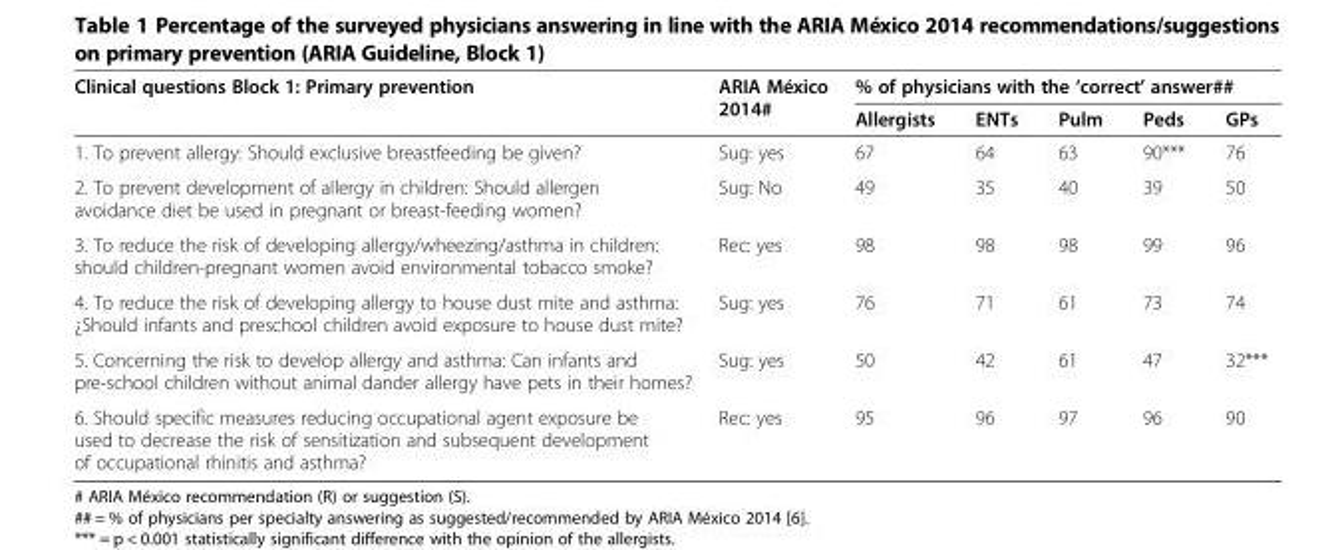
<table><thead><tr><td rowspan="2">Clinical questions Block 1: Primary prevention</td><td rowspan="2">ARIA México 2014#</td><td colspan="5">% of physicians with the ‘correct’ answer##</td></tr><tr><td>Allergists</td><td>ENTs</td><td>Pulm</td><td>Peds</td><td>GPs</td></tr></thead><tbody><tr><td>1. To prevent allergy: Should exclusive breastfeeding be given?</td><td>Sug: yes</td><td>67</td><td>64</td><td>63</td><td>90***</td><td>76</td></tr><tr><td>2. To prevent development of allergy in children: Should allergen avoidance diet be used in pregnant or breast-feeding women?</td><td>Sug: No</td><td>49</td><td>35</td><td>40</td><td>39</td><td>50</td></tr><tr><td>3. To reduce the risk of developing allergy/wheezing/asthma in children: should children-pregnant women avoid environmental tobacco smoke?</td><td>Rec: yes</td><td>98</td><td>98</td><td>98</td><td>99</td><td>96</td></tr><tr><td>4. To reduce the risk of developing allergy to house dust mite and asthma: ¿Should infants and preschool children avoid exposure to house dust mite?</td><td>Sug: yes</td><td>76</td><td>71</td><td>61</td><td>73</td><td>74</td></tr><tr><td>5. Concerning the risk to develop allergy and asthma: Can infants and pre-school children without animal dander allergy have pets in their homes?</td><td>Sug: yes</td><td>50</td><td>42</td><td>61</td><td>47</td><td>32***</td></tr><tr><td>6. Should specific measures reducing occupational agent exposure be used to decrease the risk of sensitization and subsequent development of occupational rhinitis and asthma?</td><td>Rec: yes</td><td>95</td><td>96</td><td>97</td><td>96</td><td>90</td></tr></tbody></table>